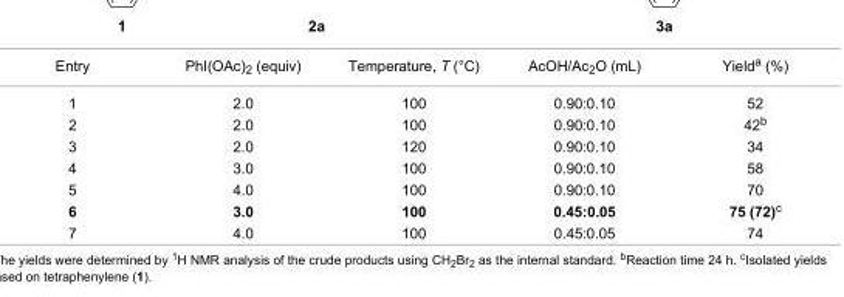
<table><tbody><tr><td>Entry</td><td>PhI(OAc)<sub>2</sub> (equiv)</td><td>Temperature, T (°C)</td><td>AcOH/Ac<sub>2</sub>O (mL)</td><td>Yield<sup>a</sup> (%)</td></tr><tr><td>1</td><td>2.0</td><td>100</td><td>0.90:0.10</td><td>52</td></tr><tr><td>2</td><td>2.0</td><td>100</td><td>0.90:0.10</td><td>42<sup>b</sup></td></tr><tr><td>3</td><td>2.0</td><td>120</td><td>0.90:0.10</td><td>34</td></tr><tr><td>4</td><td>3.0</td><td>100</td><td>0.90:0.10</td><td>58</td></tr><tr><td>5</td><td>4.0</td><td>100</td><td>0.90:0.10</td><td>70</td></tr><tr><td>6</td><td>3.0</td><td>100</td><td>0.45:0.05</td><td>75 (72)<sup>c</sup></td></tr><tr><td>7</td><td>4.0</td><td>100</td><td>0.45:0.05</td><td>74</td></tr></tbody></table>